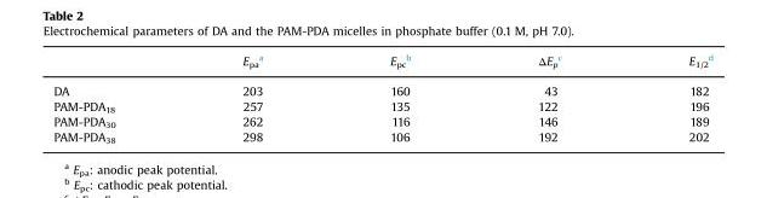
<table><thead><tr><td></td><td>E<sub>pa</sub> <sup>a</sup></td><td>E<sub>pc</sub> <sup>b</sup></td><td>ΔE<sub>p</sub> <sup>c</sup></td><td>E<sub>1/2</sub> <sup>d</sup></td></tr></thead><tbody><tr><td>DA</td><td>203</td><td>160</td><td>43</td><td>182</td></tr><tr><td>PAM-PDA<sub>18</sub></td><td>257</td><td>135</td><td>122</td><td>196</td></tr><tr><td>PAM-PDA<sub>30</sub></td><td>262</td><td>116</td><td>146</td><td>189</td></tr><tr><td>PAM-PDA<sub>38</sub></td><td>298</td><td>106</td><td>192</td><td>202</td></tr></tbody></table>